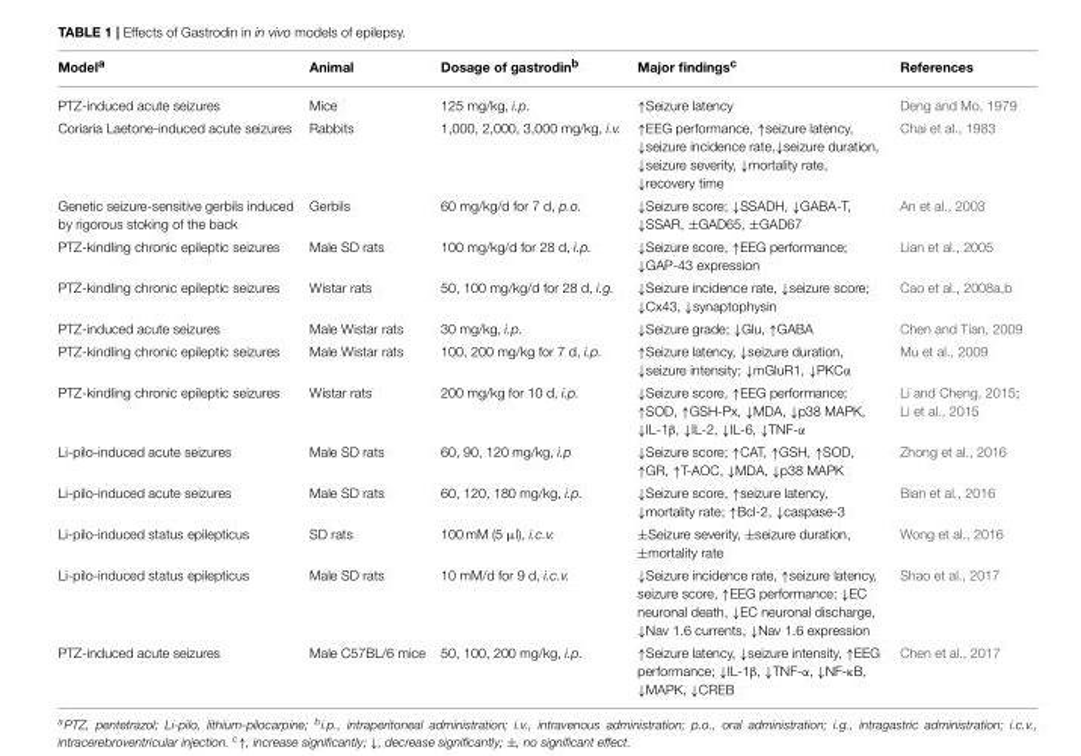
<table><thead><tr><td>Model<sup>a</sup></td><td>Animal</td><td>Dosage of gastrodin<sup>b</sup></td><td>Major findings<sup>c</sup></td><td>References</td></tr></thead><tbody><tr><td>PTZ-induced acute seizures</td><td>Mice</td><td>125 mg/kg, i.p.</td><td>↑Seizure latency</td><td>Deng and Mo, 1979</td></tr><tr><td>Coriaria Laetone-induced acute seizures</td><td>Rabbits</td><td>1,000, 2,000, 3,000 mg/kg, i.v.</td><td>↑EEG performance, ↑seizure latency, ↓seizure incidence rate,↓seizure duration, ↓seizure severity, ↓mortality rate, ↓recovery time</td><td>Chai et al., 1983</td></tr><tr><td>Genetic seizure-sensitive gerbils induced by rigorous stoking of the back</td><td>Gerbils</td><td>60 mg/kg/d for 7 d, p.o.</td><td>↓Seizure score; ↓SSADH, ↓GABA-T, ↓SSAR, ±GAD65, ±GAD67</td><td>An et al., 2003</td></tr><tr><td>PTZ-kindling chronic epileptic seizures</td><td>Male SD rats</td><td>100 mg/kg/d for 28 d, i.p.</td><td>↓Seizure score, ↑EEG performance; ↓GAP-43 expression</td><td>Lian et al., 2005</td></tr><tr><td>PTZ-kindling chronic epileptic seizures</td><td>Wistar rats</td><td>50, 100 mg/kg/d for 28 d, i.g.</td><td>↓Seizure incidence rate, ↓seizure score; ↓Cx43, ↓synaptophysin</td><td>Cao et al., 2008a,b</td></tr><tr><td>PTZ-induced acute seizures</td><td>Male Wistar rats</td><td>30 mg/kg, i.p.</td><td>↓Seizure grade; ↓Glu, ↑GABA</td><td>Chen and Tian, 2009</td></tr><tr><td>PTZ-kindling chronic epileptic seizures</td><td>Male Wistar rats</td><td>100, 200 mg/kg for 7 d, i.p.</td><td>↑Seizure latency, ↓seizure duration, ↓seizure intensity; ↓mGluR1, ↓PKCα</td><td>Mu et al., 2009</td></tr><tr><td>PTZ-kindling chronic epileptic seizures</td><td>Wistar rats</td><td>200 mg/kg for 10 d, i.p.</td><td>↓Seizure score, ↑EEG performance; ↑SOD, ↑GSH-Px, ↓MDA, ↓p38 MAPK, ↓IL-1β, ↓IL-2, ↓IL-6, ↓TNF-α</td><td>Li and Cheng, 2015; Li et al., 2015</td></tr><tr><td>Li-pilo-induced acute seizures</td><td>Male SD rats</td><td>60, 90, 120 mg/kg, i.p</td><td>↓Seizure score; ↑CAT, ↑GSH, ↑SOD, ↑GR, ↑T-AOC, ↓MDA, ↓p38 MAPK</td><td>Zhong et al., 2016</td></tr><tr><td>Li-pilo-induced acute seizures</td><td>Male SD rats</td><td>60, 120, 180 mg/kg, i.p.</td><td>↓Seizure score, ↑seizure latency, ↓mortality rate; ↑Bcl-2, ↓caspase-3</td><td>Bian et al., 2016</td></tr><tr><td>Li-pilo-induced status epilepticus</td><td>SD rats</td><td>100 mM (5 µl), i.c.v.</td><td>±Seizure severity, ±seizure duration, ±mortality rate</td><td>Wong et al., 2016</td></tr><tr><td>Li-pilo-induced status epilepticus</td><td>Male SD rats</td><td>10 mM/d for 9 d, i.c.v.</td><td>↓Seizure incidence rate, ↑seizure latency, seizure score, ↑EEG performance; ↓EC neuronal death, ↓EC neuronal discharge, ↓Nav 1.6 currents, ↓Nav 1.6 expression</td><td>Shao et al., 2017</td></tr><tr><td>PTZ-induced acute seizures</td><td>Male C57BL/6 mice</td><td>50, 100, 200 mg/kg, i.p.</td><td>↑Seizure latency, ↓seizure intensity, ↑EEG performance; ↓IL-1β, ↓TNF-α, ↓NF-κB, ↓MAPK, ↓CREB</td><td>Chen et al., 2017</td></tr></tbody></table>